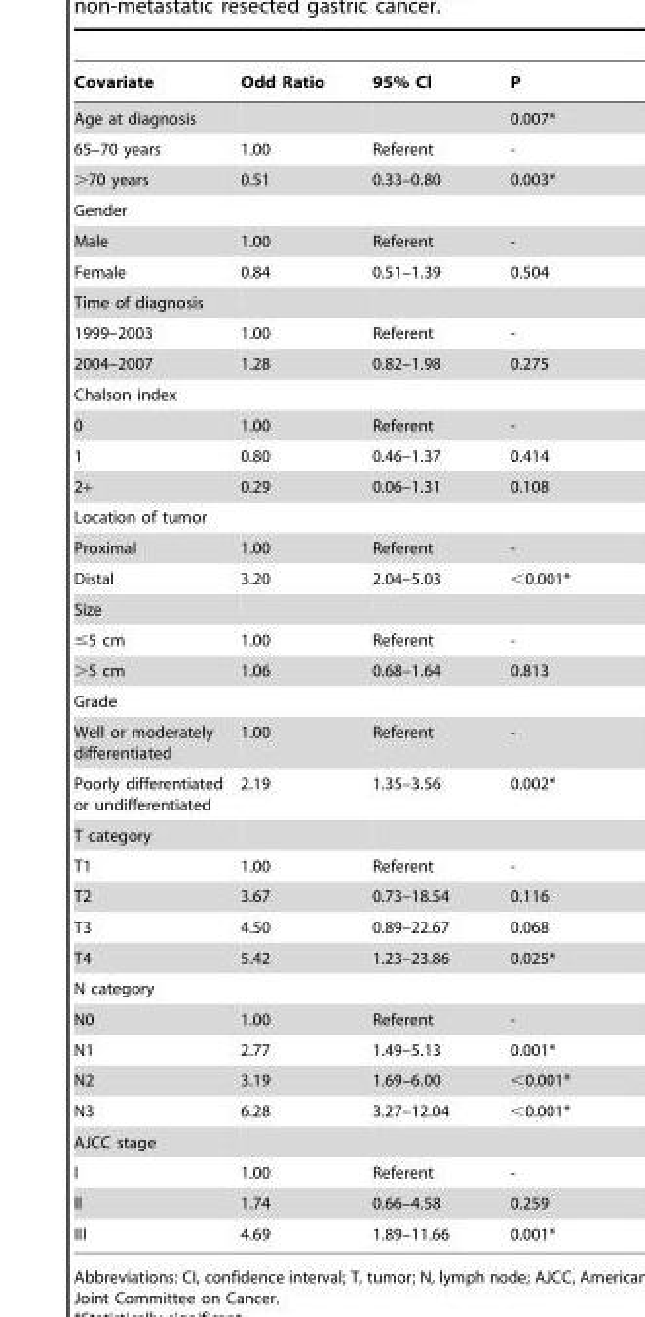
<table><thead><tr><td>Covariate</td><td>Odd Ratio</td><td>95% Cl</td><td>P</td></tr></thead><tbody><tr><td>Age at diagnosis</td><td></td><td></td><td>0.007*</td></tr><tr><td>65–70 years</td><td>1.00</td><td>Referent</td><td>-</td></tr><tr><td>&gt;70 years</td><td>0.51</td><td>0.33–0.80</td><td>0.003*</td></tr><tr><td colspan="4">Gender</td></tr><tr><td>Male</td><td>1.00</td><td>Referent</td><td>-</td></tr><tr><td>Female</td><td>0.84</td><td>0.51–1.39</td><td>0.504</td></tr><tr><td colspan="4">Time of diagnosis</td></tr><tr><td>1999–2003</td><td>1.00</td><td>Referent</td><td>-</td></tr><tr><td>2004–2007</td><td>1.28</td><td>0.82–1.98</td><td>0.275</td></tr><tr><td colspan="4">Chalson index</td></tr><tr><td>0</td><td>1.00</td><td>Referent</td><td>-</td></tr><tr><td>1</td><td>0.80</td><td>0.46–1.37</td><td>0.414</td></tr><tr><td>2+</td><td>0.29</td><td>0.06–1.31</td><td>0.108</td></tr><tr><td colspan="4">Location of tumor</td></tr><tr><td>Proximal</td><td>1.00</td><td>Referent</td><td>-</td></tr><tr><td>Distal</td><td>3.20</td><td>2.04–5.03</td><td>&lt;0.001*</td></tr><tr><td colspan="4">Size</td></tr><tr><td>≤5 cm</td><td>1.00</td><td>Referent</td><td>-</td></tr><tr><td>&gt;5 cm</td><td>1.06</td><td>0.68–1.64</td><td>0.813</td></tr><tr><td colspan="4">Grade</td></tr><tr><td>Well or moderately differentiated</td><td>1.00</td><td>Referent</td><td>-</td></tr><tr><td>Poorly differentiated or undifferentiated</td><td>2.19</td><td>1.35–3.56</td><td>0.002*</td></tr><tr><td colspan="4">T category</td></tr><tr><td>T1</td><td>1.00</td><td>Referent</td><td>-</td></tr><tr><td>T2</td><td>3.67</td><td>0.73–18.54</td><td>0.116</td></tr><tr><td>T3</td><td>4.50</td><td>0.89–22.67</td><td>0.068</td></tr><tr><td>T4</td><td>5.42</td><td>1.23–23.86</td><td>0.025*</td></tr><tr><td colspan="4">N category</td></tr><tr><td>N0</td><td>1.00</td><td>Referent</td><td>-</td></tr><tr><td>N1</td><td>2.77</td><td>1.49–5.13</td><td>0.001*</td></tr><tr><td>N2</td><td>3.19</td><td>1.69–6.00</td><td>&lt;0.001*</td></tr><tr><td>N3</td><td>6.28</td><td>3.27–12.04</td><td>&lt;0.001*</td></tr><tr><td colspan="4">AJCC stage</td></tr><tr><td>I</td><td>1.00</td><td>Referent</td><td>-</td></tr><tr><td>II</td><td>1.74</td><td>0.66–4.58</td><td>0.259</td></tr><tr><td>III</td><td>4.69</td><td>1.89–11.66</td><td>0.001*</td></tr></tbody></table>